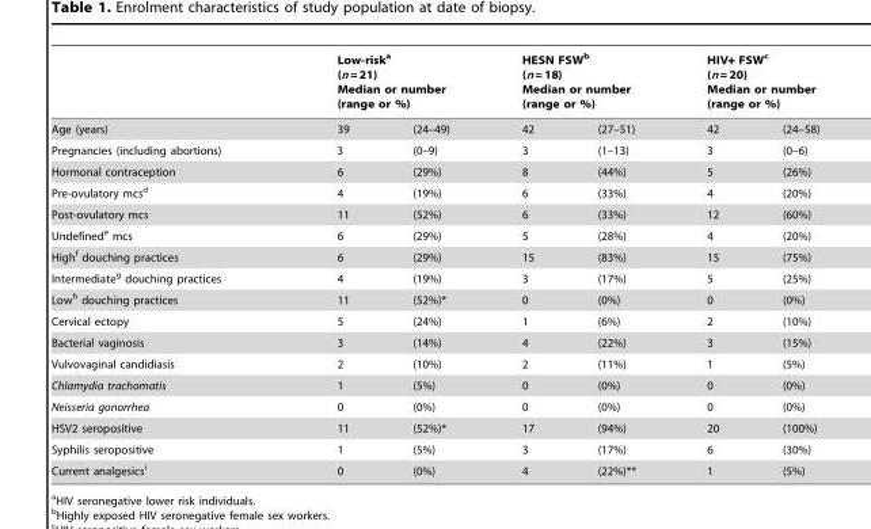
<table><thead><tr><td rowspan="2">Age (years)</td><td colspan="2">Low-risk<sup>a</sup> (n = 21) Median or number (range or %)</td><td colspan="2">HESN FSW<sup>b</sup> (n = 18) Median or number (range or %)</td><td colspan="2">HIV+ FSW<sup>c</sup> (n = 20) Median or number (range or %)</td></tr><tr><td>39</td><td>(24–49)</td><td>42</td><td>(27–51)</td><td>42</td><td>(24–58)</td></tr></thead><tbody><tr><td>Pregnancies (including abortions)</td><td>3</td><td>(0–9)</td><td>3</td><td>(1–13)</td><td>3</td><td>(0–6)</td></tr><tr><td>Hormonal contraception</td><td>6</td><td>(29%)</td><td>8</td><td>(44%)</td><td>5</td><td>(26%)</td></tr><tr><td>Pre-ovulatory mcs<sup>d</sup></td><td>4</td><td>(19%)</td><td>6</td><td>(33%)</td><td>4</td><td>(20%)</td></tr><tr><td>Post-ovulatory mcs</td><td>11</td><td>(52%)</td><td>6</td><td>(33%)</td><td>12</td><td>(60%)</td></tr><tr><td>Undefined<sup>e</sup> mcs</td><td>6</td><td>(29%)</td><td>5</td><td>(28%)</td><td>4</td><td>(20%)</td></tr><tr><td>High<sup>f</sup> douching practices</td><td>6</td><td>(29%)</td><td>15</td><td>(83%)</td><td>15</td><td>(75%)</td></tr><tr><td>Intermediate<sup>g</sup> douching practices</td><td>4</td><td>(19%)</td><td>3</td><td>(17%)</td><td>5</td><td>(25%)</td></tr><tr><td>Low<sup>h</sup> douching practices</td><td>11</td><td>(52%)*</td><td>0</td><td>(0%)</td><td>0</td><td>(0%)</td></tr><tr><td>Cervical ectopy</td><td>5</td><td>(24%)</td><td>1</td><td>(6%)</td><td>2</td><td>(10%)</td></tr><tr><td>Bacterial vaginosis</td><td>3</td><td>(14%)</td><td>4</td><td>(22%)</td><td>3</td><td>(15%)</td></tr><tr><td>Vulvovaginal candidiasis</td><td>2</td><td>(10%)</td><td>2</td><td>(11%)</td><td>1</td><td>(5%)</td></tr><tr><td>Chlamydia trachomatis</td><td>1</td><td>(5%)</td><td>0</td><td>(0%)</td><td>0</td><td>(0%)</td></tr><tr><td>Neisseria gonorrhea</td><td>0</td><td>(0%)</td><td>0</td><td>(0%)</td><td>0</td><td>(0%)</td></tr><tr><td>HSV2 seropositive</td><td>11</td><td>(52%)*</td><td>17</td><td>(94%)</td><td>20</td><td>(100%)</td></tr><tr><td>Syphilis seropositive</td><td>1</td><td>(5%)</td><td>3</td><td>(17%)</td><td>6</td><td>(30%)</td></tr><tr><td>Current analgesics<sup>i</sup></td><td>0</td><td>(0%)</td><td>4</td><td>(22%)**</td><td>1</td><td>(5%)</td></tr></tbody></table>